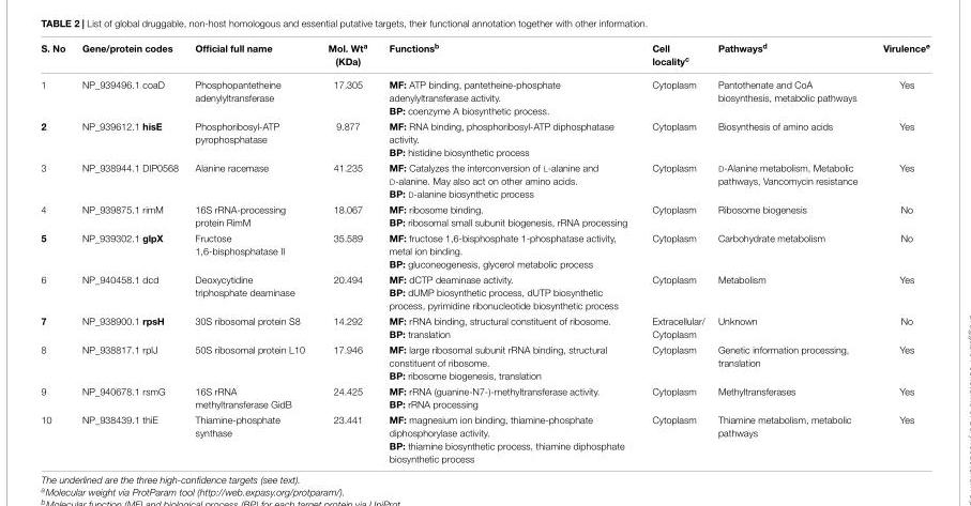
<table><thead><tr><td>S. No</td><td>Gene/protein codes</td><td>Official full name</td><td>Mol. Wt<sup>a</sup> (KDa)</td><td>Functions<sup>b</sup></td><td>Cell locality<sup>c</sup></td><td>Pathways<sup>d</sup></td><td>Virulence<sup>e</sup></td></tr></thead><tbody><tr><td>1</td><td>NP_939496.1 coaD</td><td>Phosphopantetheine adenylyltransferase</td><td>17.305</td><td>MF: ATP binding, pantetheine-phosphate adenylyltransferase activity. BP: coenzyme A biosynthetic process.</td><td>Cytoplasm</td><td>Pantothenate and CoA biosynthesis, metabolic pathways</td><td>Yes</td></tr><tr><td>2</td><td>NP_939612.1 hisE</td><td>Phosphoribosyl-ATP pyrophosphatase</td><td>9.877</td><td>MF: RNA binding, phosphoribosyl-ATP diphosphatase activity. BP: histidine biosynthetic process</td><td>Cytoplasm</td><td>Biosynthesis of amino acids</td><td>Yes</td></tr><tr><td>3</td><td>NP_938944.1 DIP0568</td><td>Alanine racemase</td><td>41.235</td><td>MF: Catalyzes the interconversion of L-alanine and D-alanine. May also act on other amino acids. BP: D-alanine biosynthetic process</td><td>Cytoplasm</td><td>D-Alanine metabolism, Metabolic pathways, Vancomycin resistance</td><td>Yes</td></tr><tr><td>4</td><td>NP_939875.1 rimM</td><td>16S rRNA-processing protein RimM</td><td>18.067</td><td>MF: ribosome binding. BP: ribosomal small subunit biogenesis, rRNA processing</td><td>Cytoplasm</td><td>Ribosome biogenesis</td><td>No</td></tr><tr><td>5</td><td>NP_939302.1 glpX</td><td>Fructose 1,6-bisphosphatase II</td><td>35.589</td><td>MF: fructose 1,6-bisphosphate 1-phosphatase activity, metal ion binding. BP: gluconeogenesis, glycerol metabolic process</td><td>Cytoplasm</td><td>Carbohydrate metabolism</td><td>No</td></tr><tr><td>6</td><td>NP_940458.1 dcd</td><td>Deoxycytidine triphosphate deaminase</td><td>20.494</td><td>MF: dCTP deaminase activity. BP: dUMP biosynthetic process, dUTP biosynthetic process, pyrimidine ribonucleotide biosynthetic process</td><td>Cytoplasm</td><td>Metabolism</td><td>Yes</td></tr><tr><td>7</td><td>NP_938900.1 rpsH</td><td>30S ribosomal protein S8</td><td>14.292</td><td>MF: rRNA binding, structural constituent of ribosome. BP: translation</td><td>Extracellular/ Cytoplasm</td><td>Unknown</td><td>No</td></tr><tr><td>8</td><td>NP_938817.1 rplJ</td><td>50S ribosomal protein L10</td><td>17.946</td><td>MF: large ribosomal subunit rRNA binding, structural constituent of ribosome. BP: ribosome biogenesis, translation</td><td>Cytoplasm</td><td>Genetic information processing, translation</td><td>Yes</td></tr><tr><td>9</td><td>NP_940678.1 rsmG</td><td>16S rRNA methyltransferase GidB</td><td>24.425</td><td>MF: rRNA (guanine-N7-)-methyltransferase activity. BP: rRNA processing</td><td>Cytoplasm</td><td>Methyltransferases</td><td>Yes</td></tr><tr><td>10</td><td>NP_938439.1 thiE</td><td>Thiamine-phosphate synthase</td><td>23.441</td><td>MF: magnesium ion binding, thiamine-phosphate diphosphorylase activity. BP: thiamine biosynthetic process, thiamine diphosphate biosynthetic process</td><td>Cytoplasm</td><td>Thiamine metabolism, metabolic pathways</td><td>Yes</td></tr></tbody></table>